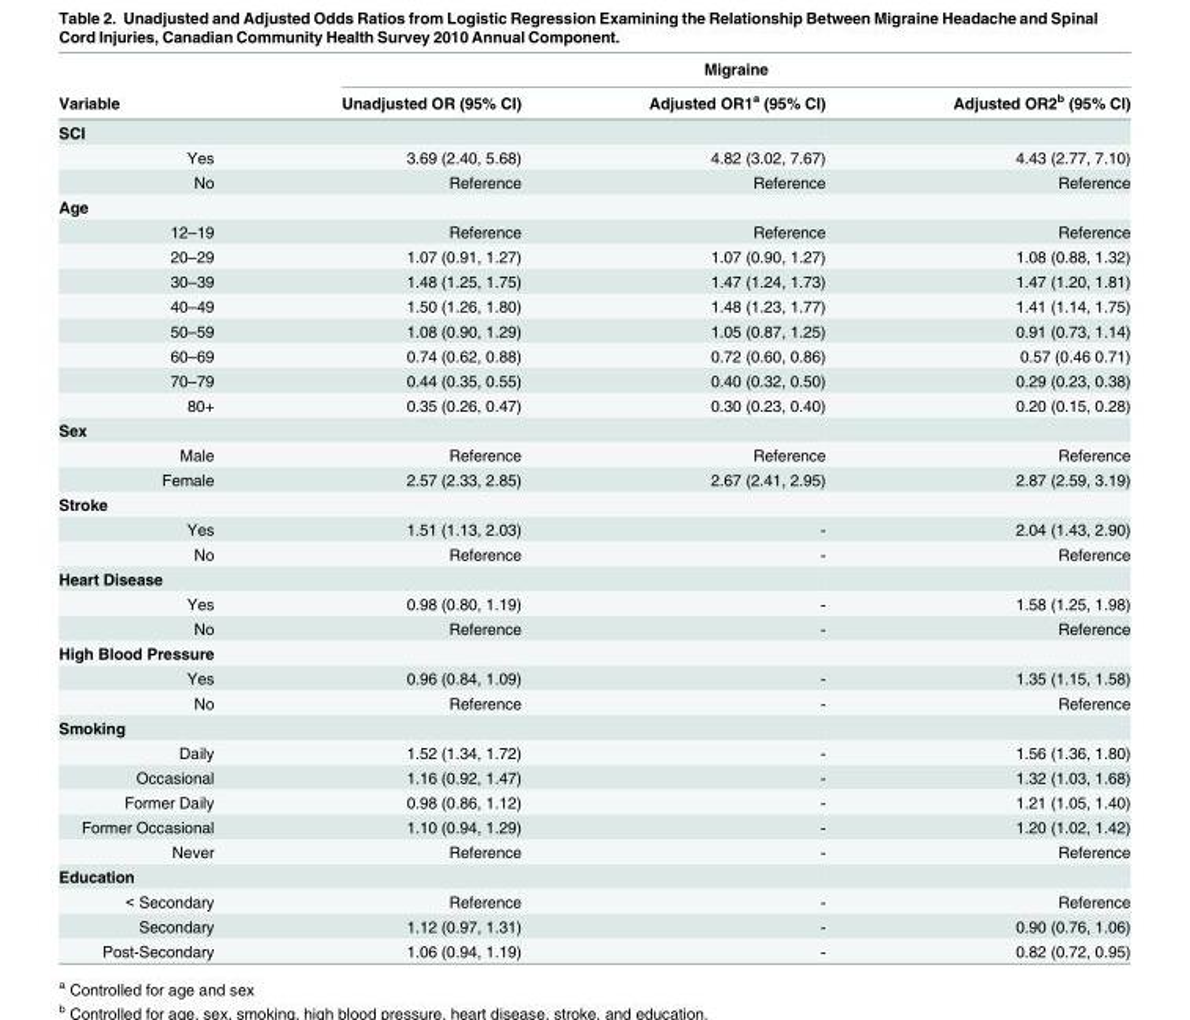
<table><thead><tr><td rowspan="2">Variable</td><td colspan="3">Migraine</td></tr><tr><td>Unadjusted OR (95% CI)</td><td>Adjusted OR1<sup>a</sup> (95% CI)</td><td>Adjusted OR2<sup>b</sup> (95% CI)</td></tr></thead><tbody><tr><td colspan="4">SCI</td></tr><tr><td>Yes</td><td>3.69 (2.40, 5.68)</td><td>4.82 (3.02, 7.67)</td><td>4.43 (2.77, 7.10)</td></tr><tr><td>No</td><td>Reference</td><td>Reference</td><td>Reference</td></tr><tr><td colspan="4">Age</td></tr><tr><td>12–19</td><td>Reference</td><td>Reference</td><td>Reference</td></tr><tr><td>20–29</td><td>1.07 (0.91, 1.27)</td><td>1.07 (0.90, 1.27)</td><td>1.08 (0.88, 1.32)</td></tr><tr><td>30–39</td><td>1.48 (1.25, 1.75)</td><td>1.47 (1.24, 1.73)</td><td>1.47 (1.20, 1.81)</td></tr><tr><td>40–49</td><td>1.50 (1.26, 1.80)</td><td>1.48 (1.23, 1.77)</td><td>1.41 (1.14, 1.75)</td></tr><tr><td>50–59</td><td>1.08 (0.90, 1.29)</td><td>1.05 (0.87, 1.25)</td><td>0.91 (0.73, 1.14)</td></tr><tr><td>60–69</td><td>0.74 (0.62, 0.88)</td><td>0.72 (0.60, 0.86)</td><td>0.57 (0.46 0.71)</td></tr><tr><td>70–79</td><td>0.44 (0.35, 0.55)</td><td>0.40 (0.32, 0.50)</td><td>0.29 (0.23, 0.38)</td></tr><tr><td>80+</td><td>0.35 (0.26, 0.47)</td><td>0.30 (0.23, 0.40)</td><td>0.20 (0.15, 0.28)</td></tr><tr><td colspan="4">Sex</td></tr><tr><td>Male</td><td>Reference</td><td>Reference</td><td>Reference</td></tr><tr><td>Female</td><td>2.57 (2.33, 2.85)</td><td>2.67 (2.41, 2.95)</td><td>2.87 (2.59, 3.19)</td></tr><tr><td colspan="4">Stroke</td></tr><tr><td>Yes</td><td>1.51 (1.13, 2.03)</td><td>-</td><td>2.04 (1.43, 2.90)</td></tr><tr><td>No</td><td>Reference</td><td>-</td><td>Reference</td></tr><tr><td colspan="4">Heart Disease</td></tr><tr><td>Yes</td><td>0.98 (0.80, 1.19)</td><td>-</td><td>1.58 (1.25, 1.98)</td></tr><tr><td>No</td><td>Reference</td><td>-</td><td>Reference</td></tr><tr><td colspan="4">High Blood Pressure</td></tr><tr><td>Yes</td><td>0.96 (0.84, 1.09)</td><td>-</td><td>1.35 (1.15, 1.58)</td></tr><tr><td>No</td><td>Reference</td><td>-</td><td>Reference</td></tr><tr><td colspan="4">Smoking</td></tr><tr><td>Daily</td><td>1.52 (1.34, 1.72)</td><td>-</td><td>1.56 (1.36, 1.80)</td></tr><tr><td>Occasional</td><td>1.16 (0.92, 1.47)</td><td>-</td><td>1.32 (1.03, 1.68)</td></tr><tr><td>Former Daily</td><td>0.98 (0.86, 1.12)</td><td>-</td><td>1.21 (1.05, 1.40)</td></tr><tr><td>Former Occasional</td><td>1.10 (0.94, 1.29)</td><td>-</td><td>1.20 (1.02, 1.42)</td></tr><tr><td>Never</td><td>Reference</td><td>-</td><td>Reference</td></tr><tr><td colspan="4">Education</td></tr><tr><td>&lt; Secondary</td><td>Reference</td><td>-</td><td>Reference</td></tr><tr><td>Secondary</td><td>1.12 (0.97, 1.31)</td><td>-</td><td>0.90 (0.76, 1.06)</td></tr><tr><td>Post-Secondary</td><td>1.06 (0.94, 1.19)</td><td>-</td><td>0.82 (0.72, 0.95)</td></tr></tbody></table>